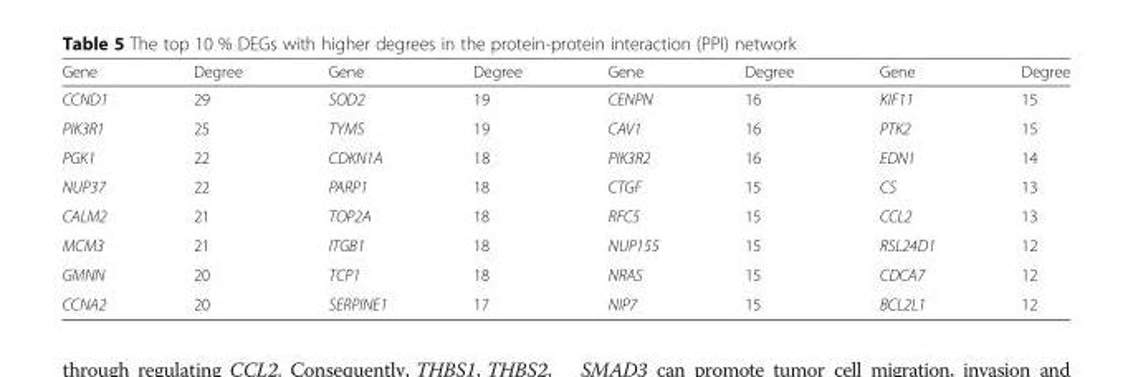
<table><thead><tr><td>Gene</td><td>Degree</td><td>Gene</td><td>Degree</td><td>Gene</td><td>Degree</td><td>Gene</td><td>Degree</td></tr></thead><tbody><tr><td>CCND1</td><td>29</td><td>SOD2</td><td>19</td><td>CENPN</td><td>16</td><td>KIF11</td><td>15</td></tr><tr><td>PIK3R1</td><td>25</td><td>TYMS</td><td>19</td><td>CAV1</td><td>16</td><td>PTK2</td><td>15</td></tr><tr><td>PGK1</td><td>22</td><td>CDKN1A</td><td>18</td><td>PIK3R2</td><td>16</td><td>EDN1</td><td>14</td></tr><tr><td>NUP37</td><td>22</td><td>PARP1</td><td>18</td><td>CTGF</td><td>15</td><td>CS</td><td>13</td></tr><tr><td>CALM2</td><td>21</td><td>TOP2A</td><td>18</td><td>RFC5</td><td>15</td><td>CCL2</td><td>13</td></tr><tr><td>MCM3</td><td>21</td><td>ITGB1</td><td>18</td><td>NUP155</td><td>15</td><td>RSL24D1</td><td>12</td></tr><tr><td>GMNN</td><td>20</td><td>TCP1</td><td>18</td><td>NRAS</td><td>15</td><td>CDCA7</td><td>12</td></tr><tr><td>CCNA2</td><td>20</td><td>SERPINE1</td><td>17</td><td>NIP7</td><td>15</td><td>BCL2L1</td><td>12</td></tr></tbody></table>